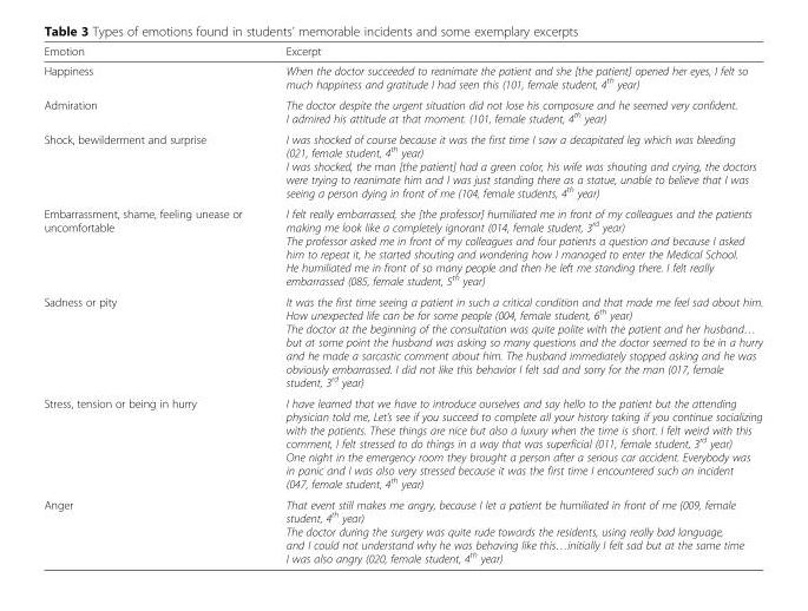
<table><thead><tr><td>Emotion</td><td>Excerpt</td></tr></thead><tbody><tr><td>Happiness</td><td>When the doctor succeeded to reanimate the patient and she [the patient] opened her eyes, I felt so much happiness and gratitude I had seen this (101, female student, 4<sup>th</sup> year)</td></tr><tr><td>Admiration</td><td>The doctor despite the urgent situation did not lose his composure and he seemed very confident. I admired his attitude at that moment. (101, female student, 4<sup>th</sup> year)</td></tr><tr><td>Shock, bewilderment and surprise</td><td>I was shocked of course because it was the first time I saw a decapitated leg which was bleeding (021, female student, 4<sup>th</sup> year) I was shocked, the man [the patient] had a green color, his wife was shouting and crying, the doctors were trying to reanimate him and I was just standing there as a statue, unable to believe that I was seeing a person dying in front of me (104, female students, 4<sup>th</sup> year)</td></tr><tr><td>Embarrassment, shame, feeling unease or uncomfortable</td><td>I felt really embarrassed, she [the professor] humiliated me in front of my colleagues and the patients making me look like a completely ignorant (014, female student, 3<sup>rd</sup> year) The professor asked me in front of my colleagues and four patients a question and because I asked him to repeat it, he started shouting and wondering how I managed to enter the Medical School. He humiliated me in front of so many people and then he left me standing there. I felt really embarrassed (085, female student, 5<sup>th</sup> year)</td></tr><tr><td>Sadness or pity</td><td>It was the first time seeing a patient in such a critical condition and that made me feel sad about him. How unexpected life can be for some people (004, female student, 6<sup>th</sup> year) The doctor at the beginning of the consultation was quite polite with the patient and her husband… but at some point the husband was asking so many questions and the doctor seemed to be in a hurry and he made a sarcastic comment about him. The husband immediately stopped asking and he was obviously embarrassed. I did not like this behavior I felt sad and sorry for the man (017, female student, 3<sup>rd</sup> year)</td></tr><tr><td>Stress, tension or being in hurry</td><td>I have learned that we have to introduce ourselves and say hello to the patient but the attending physician told me, Let’s see if you succeed to complete all your history taking if you continue socializing with the patients. These things are nice but also a luxury when the time is short. I felt weird with this comment, I felt stressed to do things in a way that was superficial (011, female student, 3<sup>rd</sup> year) One night in the emergency room they brought a person after a serious car accident. Everybody was in panic and I was also very stressed because it was the first time I encountered such an incident (047, female student, 4<sup>th</sup> year)</td></tr><tr><td>Anger</td><td>That event still makes me angry, because I let a patient be humiliated in front of me (009, female student, 4<sup>th</sup> year) The doctor during the surgery was quite rude towards the residents, using really bad language, and I could not understand why he was behaving like this…initially I felt sad but at the same time I was also angry (020, female student, 4<sup>th</sup> year)</td></tr></tbody></table>